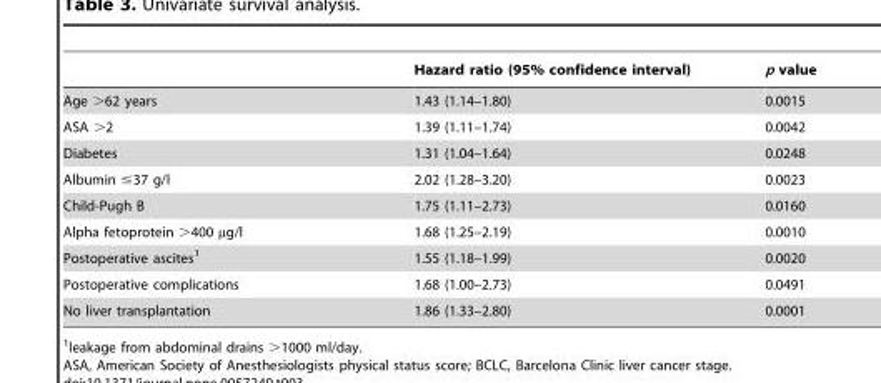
<table><thead><tr><td></td><td>Hazard ratio (95% confidence interval)</td><td>p value</td></tr></thead><tbody><tr><td>Age &gt;62 years</td><td>1.43 (1.14–1.80)</td><td>0.0015</td></tr><tr><td>ASA &gt;2</td><td>1.39 (1.11–1.74)</td><td>0.0042</td></tr><tr><td>Diabetes</td><td>1.31 (1.04–1.64)</td><td>0.0248</td></tr><tr><td>Albumin ≤37 g/l</td><td>2.02 (1.28–3.20)</td><td>0.0023</td></tr><tr><td>Child-Pugh B</td><td>1.75 (1.11–2.73)</td><td>0.0160</td></tr><tr><td>Alpha fetoprotein &gt;400 µg/l</td><td>1.68 (1.25–2.19)</td><td>0.0010</td></tr><tr><td>Postoperative ascites<sup>1</sup></td><td>1.55 (1.18–1.99)</td><td>0.0020</td></tr><tr><td>Postoperative complications</td><td>1.68 (1.00–2.73)</td><td>0.0491</td></tr><tr><td>No liver transplantation</td><td>1.86 (1.33–2.80)</td><td>0.0001</td></tr></tbody></table>